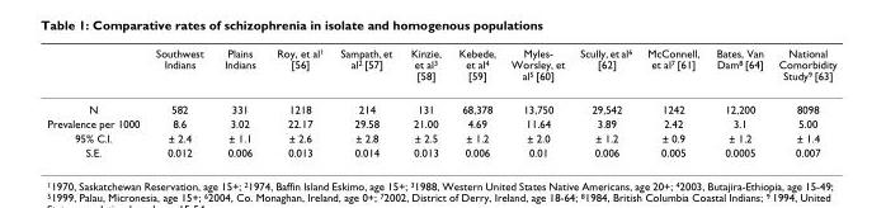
<table><thead><tr><td></td><td>Southwest Indians</td><td>Plains Indians</td><td>Roy, et al<sup>1</sup> [56]</td><td>Sampath, et al<sup>2</sup> [57]</td><td>Kinzie, et al<sup>3</sup> [58]</td><td>Kebede, et al<sup>4</sup> [59]</td><td>Myles- Worsley, et al<sup>5</sup> [60]</td><td>Scully, et al<sup>6</sup> [62]</td><td>McConnell, et al<sup>7</sup> [61]</td><td>Bates, Van Dam<sup>8</sup> [64]</td><td>National Comorbidity Study<sup>9</sup> [63]</td></tr></thead><tbody><tr><td>N</td><td>582</td><td>331</td><td>1218</td><td>214</td><td>131</td><td>68,378</td><td>13,750</td><td>29,542</td><td>1242</td><td>12,200</td><td>8098</td></tr><tr><td>Prevalence per 1000</td><td>8.6</td><td>3.02</td><td>22.17</td><td>29.58</td><td>21.00</td><td>4.69</td><td>11.64</td><td>3.89</td><td>2.42</td><td>3.1</td><td>5.00</td></tr><tr><td>95% C.I.</td><td>± 2.4</td><td>± 1.1</td><td>± 2.6</td><td>± 2.8</td><td>± 2.5</td><td>± 1.2</td><td>± 2.0</td><td>± 1.2</td><td>± 0.9</td><td>± 1.2</td><td>± 1.4</td></tr><tr><td>S.E.</td><td>0.012</td><td>0.006</td><td>0.013</td><td>0.014</td><td>0.013</td><td>0.006</td><td>0.01</td><td>0.006</td><td>0.005</td><td>0.0005</td><td>0.007</td></tr></tbody></table>